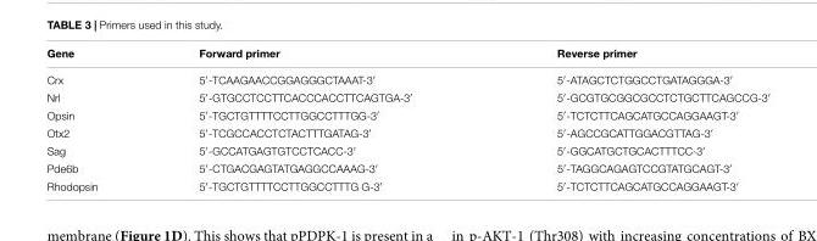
<table><thead><tr><td>Gene</td><td>Forward primer</td><td>Reverse primer</td></tr></thead><tbody><tr><td>Crx</td><td>5′-TCAAGAACCGGAGGGCTAAAT-3′</td><td>5′-ATAGCTCTGGCCTGATAGGGA-3′</td></tr><tr><td>Nrl</td><td>5′-GTGCCTCCTTCACCCACCTTCAGTGA-3′</td><td>5′-GCGTGCGGCGCCTCTGCTTCAGCCG-3′</td></tr><tr><td>Opsin</td><td>5′-TGCTGTTTTCCTTGGCCTTTGG-3′</td><td>5′-TCTCTTCAGCATGCCAGGAAGT-3′</td></tr><tr><td>Otx2</td><td>5′-TCGCCACCTCTACTTTGATAG-3′</td><td>5′-AGCCGCATTGGACGTTAG-3′</td></tr><tr><td>Sag</td><td>5′-GCCATGAGTGTCCTCACC-3′</td><td>5′-GGCATGCTGCACTTTCC-3′</td></tr><tr><td>Pde6b</td><td>5′-CTGACGAGTATGAGGCCAAAG-3′</td><td>5′-TAGGCAGAGTCCGTATGCAGT-3′</td></tr><tr><td>Rhodopsin</td><td>5′-TGCTGTTTTCCTTGGCCTTTG G-3′</td><td>5′-TCTCTTCAGCATGCCAGGAAGT-3′</td></tr></tbody></table>